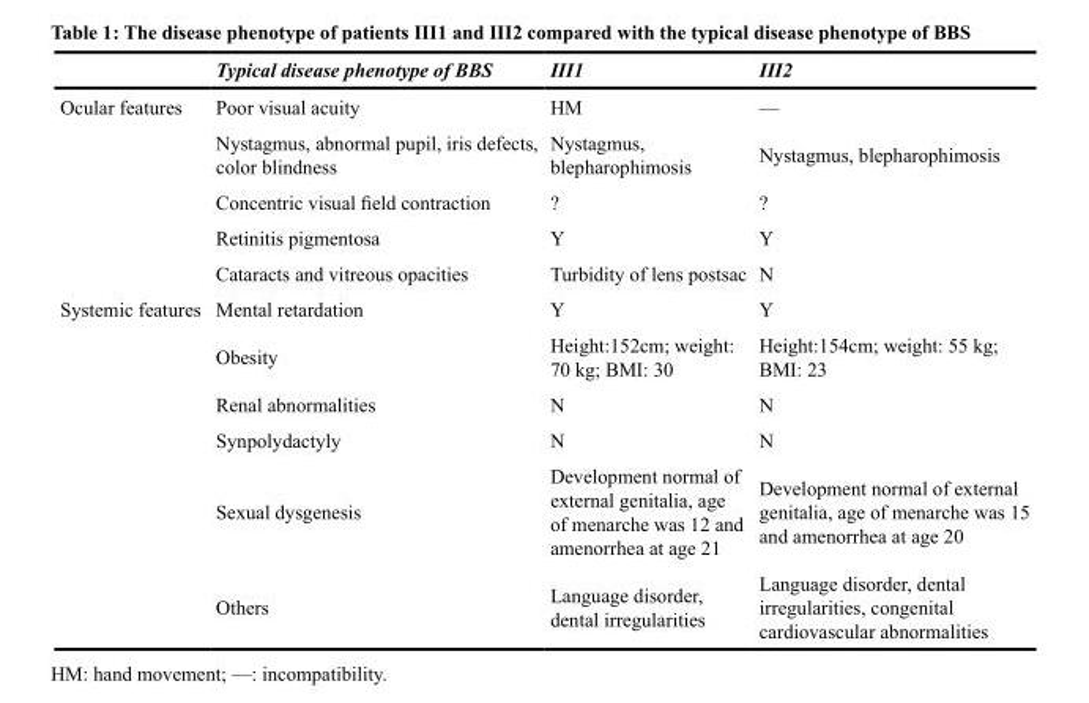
<table><thead><tr><td></td><td>Typical disease phenotype of BBS</td><td>III1</td><td>III2</td></tr></thead><tbody><tr><td rowspan="5">Ocular features</td><td>Poor visual acuity</td><td>HM</td><td>—</td></tr><tr><td>Nystagmus, abnormal pupil, iris defects, color blindness</td><td>Nystagmus, blepharophimosis</td><td>Nystagmus, blepharophimosis</td></tr><tr><td>Concentric visual field contraction</td><td>?</td><td>?</td></tr><tr><td>Retinitis pigmentosa</td><td>Y</td><td>Y</td></tr><tr><td>Cataracts and vitreous opacities</td><td>Turbidity of lens postsac</td><td>N</td></tr><tr><td rowspan="6">Systemic features</td><td>Mental retardation</td><td>Y</td><td>Y</td></tr><tr><td>Obesity</td><td>Height:152cm; weight: 70 kg; BMI: 30</td><td>Height:154cm; weight: 55 kg; BMI: 23</td></tr><tr><td>Renal abnormalities</td><td>N</td><td>N</td></tr><tr><td>Synpolydactyly</td><td>N</td><td>N</td></tr><tr><td>Sexual dysgenesis</td><td>Development normal of external genitalia, age of menarche was 12 and amenorrhea at age 21</td><td>Development normal of external genitalia, age of menarche was 15 and amenorrhea at age 20</td></tr><tr><td>Others</td><td>Language disorder, dental irregularities</td><td>Language disorder, dental irregularities, congenital cardiovascular abnormalities</td></tr></tbody></table>